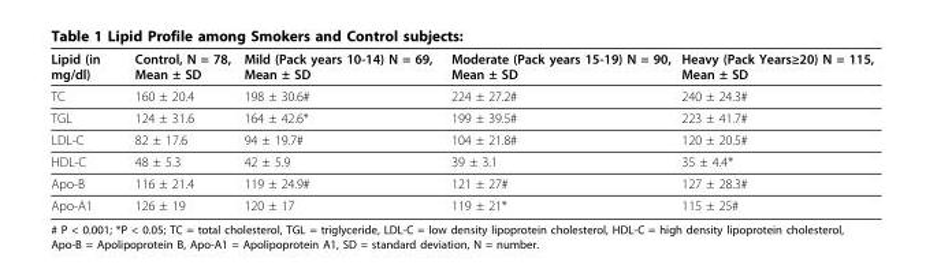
<table><thead><tr><td>Lipid (in mg/dl)</td><td>Control, N = 78, Mean ± SD</td><td>Mild (Pack years 10-14) N = 69, Mean ± SD</td><td>Moderate (Pack years 15-19) N = 90, Mean ± SD</td><td>Heavy (Pack Years≥20) N = 115, Mean ± SD</td></tr></thead><tbody><tr><td>TC</td><td>160 ± 20.4</td><td>198 ± 30.6#</td><td>224 ± 27.2#</td><td>240 ± 24.3#</td></tr><tr><td>TGL</td><td>124 ± 31.6</td><td>164 ± 42.6*</td><td>199 ± 39.5#</td><td>223 ± 41.7#</td></tr><tr><td>LDL-C</td><td>82 ± 17.6</td><td>94 ± 19.7#</td><td>104 ± 21.8#</td><td>120 ± 20.5#</td></tr><tr><td>HDL-C</td><td>48 ± 5.3</td><td>42 ± 5.9</td><td>39 ± 3.1</td><td>35 ± 4.4*</td></tr><tr><td>Apo-B</td><td>116 ± 21.4</td><td>119 ± 24.9#</td><td>121 ± 27#</td><td>127 ± 28.3#</td></tr><tr><td>Apo-A1</td><td>126 ± 19</td><td>120 ± 17</td><td>119 ± 21*</td><td>115 ± 25#</td></tr></tbody></table>